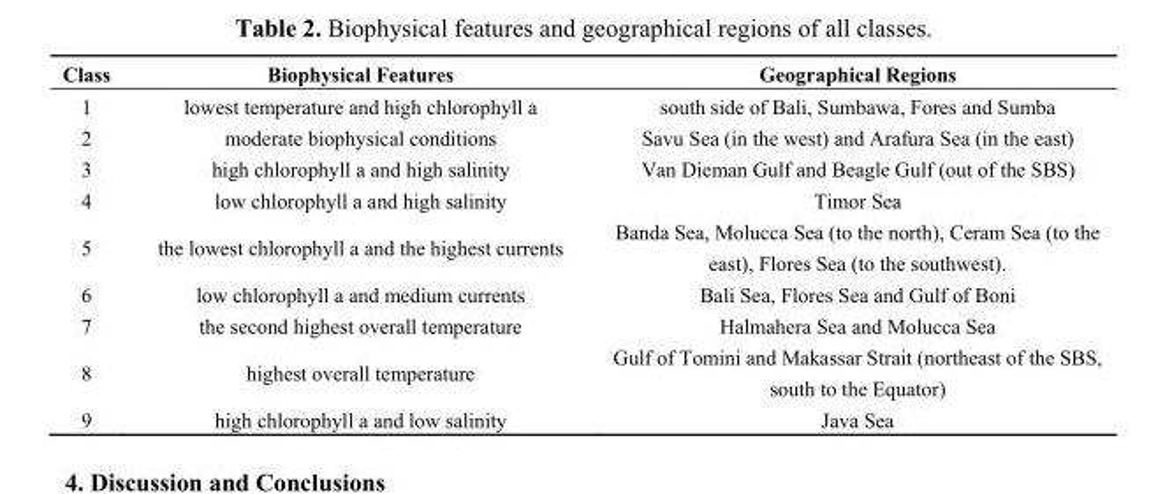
<table><thead><tr><td>Class</td><td>Biophysical Features</td><td>Geographical Regions</td></tr></thead><tbody><tr><td>1</td><td>lowest temperature and high chlorophyll a</td><td>south side of Bali, Sumbawa, Fores and Sumba</td></tr><tr><td>2</td><td>moderate biophysical conditions</td><td>Savu Sea (in the west) and Arafura Sea (in the east)</td></tr><tr><td>3</td><td>high chlorophyll a and high salinity</td><td>Van Dieman Gulf and Beagle Gulf (out of the SBS)</td></tr><tr><td>4</td><td>low chlorophyll a and high salinity</td><td>Timor Sea</td></tr><tr><td>5</td><td>the lowest chlorophyll a and the highest currents</td><td>Banda Sea, Molucca Sea (to the north), Ceram Sea (to the east), Flores Sea (to the southwest).</td></tr><tr><td>6</td><td>low chlorophyll a and medium currents</td><td>Bali Sea, Flores Sea and Gulf of Boni</td></tr><tr><td>7</td><td>the second highest overall temperature</td><td>Halmahera Sea and Molucca Sea</td></tr><tr><td>8</td><td>highest overall temperature</td><td>Gulf of Tomini and Makassar Strait (northeast of the SBS, south to the Equator)</td></tr><tr><td>9</td><td>high chlorophyll a and low salinity</td><td>Java Sea</td></tr></tbody></table>